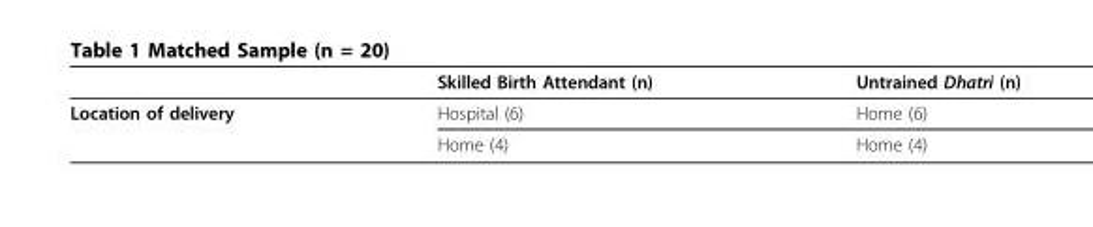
<table><thead><tr><td></td><td>Skilled Birth Attendant (n)</td><td>Untrained Dhatri (n)</td></tr></thead><tbody><tr><td rowspan="2">Location of delivery</td><td>Hospital (6)</td><td>Home (6)</td></tr><tr><td>Home (4)</td><td>Home (4)</td></tr></tbody></table>